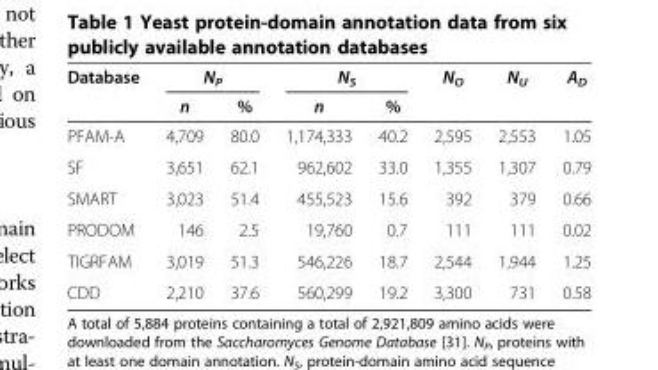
<table><thead><tr><td rowspan="2">Database</td><td colspan="2">N<sub>P</sub></td><td colspan="2">N<sub>S</sub></td><td rowspan="2">N<sub>O</sub></td><td rowspan="2">N<sub>U</sub></td><td rowspan="2">A<sub>D</sub></td></tr><tr><td>n</td><td>%</td><td>n</td><td>%</td></tr></thead><tbody><tr><td>PFAM-A</td><td>4,709</td><td>80.0</td><td>1,174,333</td><td>40.2</td><td>2,595</td><td>2,553</td><td>1.05</td></tr><tr><td>SF</td><td>3,651</td><td>62.1</td><td>962,602</td><td>33.0</td><td>1,355</td><td>1,307</td><td>0.79</td></tr><tr><td>SMART</td><td>3,023</td><td>51.4</td><td>455,523</td><td>15.6</td><td>392</td><td>379</td><td>0.66</td></tr><tr><td>PRODOM</td><td>146</td><td>2.5</td><td>19,760</td><td>0.7</td><td>111</td><td>111</td><td>0.02</td></tr><tr><td>TIGRFAM</td><td>3,019</td><td>51.3</td><td>546,226</td><td>18.7</td><td>2,544</td><td>1,944</td><td>1.25</td></tr><tr><td>CDD</td><td>2,210</td><td>37.6</td><td>560,299</td><td>19.2</td><td>3,300</td><td>731</td><td>0.58</td></tr></tbody></table>